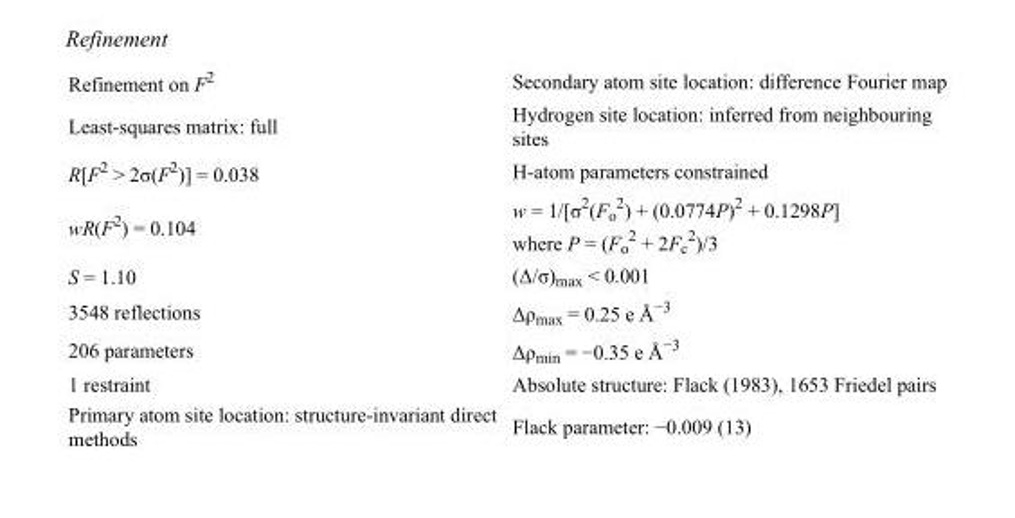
<table><tbody><tr><td>Refinement on F<sup>2</sup></td><td>Secondary atom site location: difference Fourier map</td></tr><tr><td>Least-squares matrix: full</td><td>Hydrogen site location: inferred from neighbouring sites</td></tr><tr><td>R[F<sup>2</sup> &gt; 2σ(F<sup>2</sup>)] = 0.038</td><td>H-atom parameters constrained</td></tr><tr><td>wR(F<sup>2</sup>) = 0.104</td><td>w = 1/[σ<sup>2</sup>(F<sub>o</sub> <sup>2</sup>) + (0.0774P)<sup>2</sup> + 0.1298P] where P = (F<sub>o</sub> <sup>2</sup> + 2F<sub>c</sub> <sup>2</sup>)/3</td></tr><tr><td>S = 1.10</td><td>(Δ/σ)<sub>max</sub> &lt; 0.001</td></tr><tr><td>3548 reflections</td><td>Δρ<sub>max</sub> = 0.25 e Å<sup>−3</sup></td></tr><tr><td>206 parameters</td><td>Δρ<sub>min</sub> = −0.35 e Å<sup>−3</sup></td></tr><tr><td>1 restraint</td><td>Absolute structure: Flack (1983), 1653 Friedel pairs</td></tr><tr><td>Primary atom site location: structure-invariant direct methods</td><td>Flack parameter: −0.009 (13)</td></tr></tbody></table>